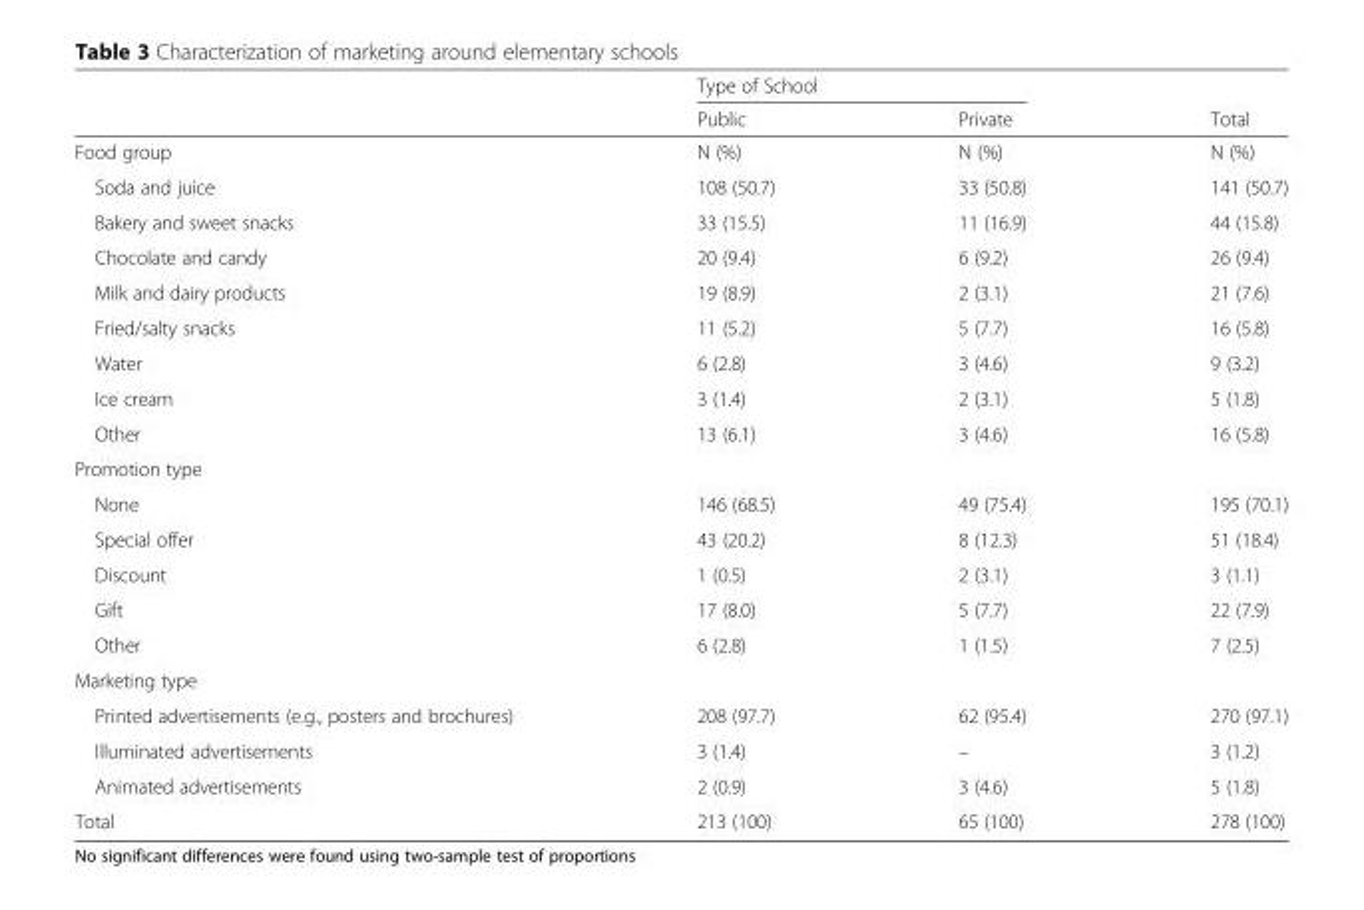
<table><thead><tr><td rowspan="2"></td><td colspan="2">Type of School</td><td rowspan="2">Total</td></tr><tr><td>Public</td><td>Private</td></tr></thead><tbody><tr><td>Food group</td><td>N (%)</td><td>N (%)</td><td>N (%)</td></tr><tr><td>Soda and juice</td><td>108 (50.7)</td><td>33 (50.8)</td><td>141 (50.7)</td></tr><tr><td>Bakery and sweet snacks</td><td>33 (15.5)</td><td>11 (16.9)</td><td>44 (15.8)</td></tr><tr><td>Chocolate and candy</td><td>20 (9.4)</td><td>6 (9.2)</td><td>26 (9.4)</td></tr><tr><td>Milk and dairy products</td><td>19 (8.9)</td><td>2 (3.1)</td><td>21 (7.6)</td></tr><tr><td>Fried/salty snacks</td><td>11 (5.2)</td><td>5 (7.7)</td><td>16 (5.8)</td></tr><tr><td>Water</td><td>6 (2.8)</td><td>3 (4.6)</td><td>9 (3.2)</td></tr><tr><td>Ice cream</td><td>3 (1.4)</td><td>2 (3.1)</td><td>5 (1.8)</td></tr><tr><td>Other</td><td>13 (6.1)</td><td>3 (4.6)</td><td>16 (5.8)</td></tr><tr><td colspan="4">Promotion type</td></tr><tr><td>None</td><td>146 (68.5)</td><td>49 (75.4)</td><td>195 (70.1)</td></tr><tr><td>Special offer</td><td>43 (20.2)</td><td>8 (12.3)</td><td>51 (18.4)</td></tr><tr><td>Discount</td><td>1 (0.5)</td><td>2 (3.1)</td><td>3 (1.1)</td></tr><tr><td>Gift</td><td>17 (8.0)</td><td>5 (7.7)</td><td>22 (7.9)</td></tr><tr><td>Other</td><td>6 (2.8)</td><td>1 (1.5)</td><td>7 (2.5)</td></tr><tr><td colspan="4">Marketing type</td></tr><tr><td>Printed advertisements (e.g., posters and brochures)</td><td>208 (97.7)</td><td>62 (95.4)</td><td>270 (97.1)</td></tr><tr><td>Illuminated advertisements</td><td>3 (1.4)</td><td>–</td><td>3 (1.2)</td></tr><tr><td>Animated advertisements</td><td>2 (0.9)</td><td>3 (4.6)</td><td>5 (1.8)</td></tr><tr><td>Total</td><td>213 (100)</td><td>65 (100)</td><td>278 (100)</td></tr></tbody></table>